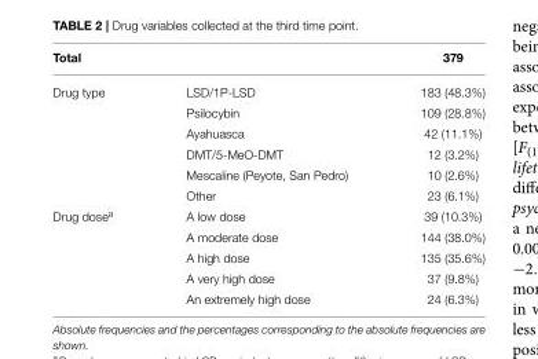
<table><thead><tr><td>Total</td><td></td><td>379</td></tr></thead><tbody><tr><td rowspan="6">Drug type</td><td>LSD/1P-LSD</td><td>183 (48.3%)</td></tr><tr><td>Psilocybin</td><td>109 (28.8%)</td></tr><tr><td>Ayahuasca</td><td>42 (11.1%)</td></tr><tr><td>DMT/5-MeO-DMT</td><td>12 (3.2%)</td></tr><tr><td>Mescaline (Peyote, San Pedro)</td><td>10 (2.6%)</td></tr><tr><td>Other</td><td>23 (6.1%)</td></tr><tr><td rowspan="5">Drug dose<sup>a</sup></td><td>A low dose</td><td>39 (10.3%)</td></tr><tr><td>A moderate dose</td><td>144 (38.0%)</td></tr><tr><td>A high dose</td><td>135 (35.6%)</td></tr><tr><td>A very high dose</td><td>37 (9.8%)</td></tr><tr><td>An extremely high dose</td><td>24 (6.3%)</td></tr></tbody></table>